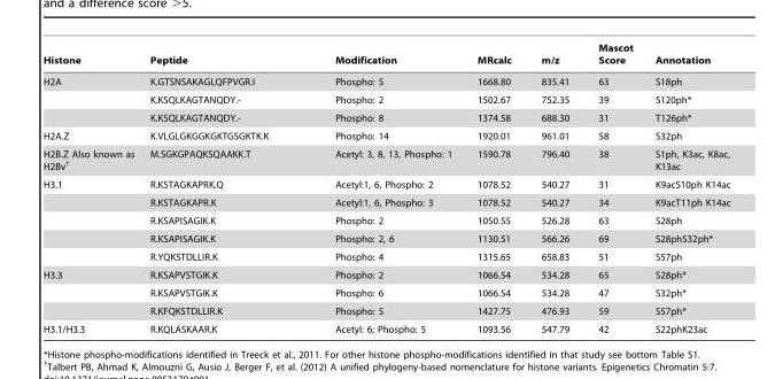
<table><thead><tr><td>Histone</td><td>Peptide</td><td>Modification</td><td>MRcalc</td><td>m/z</td><td>Mascot Score</td><td>Annotation</td></tr></thead><tbody><tr><td rowspan="3">H2A</td><td>K.GTSNSAKAGLQFPVGR.I</td><td>Phospho: 5</td><td>1668.80</td><td>835.41</td><td>63</td><td>S18ph</td></tr><tr><td>K.KSQLKAGTANQDY.-</td><td>Phospho: 2</td><td>1502.67</td><td>752.35</td><td>39</td><td>S120ph*</td></tr><tr><td>K.KSQLKAGTANQDY.-</td><td>Phospho: 8</td><td>1374.58</td><td>688.30</td><td>31</td><td>T126ph*</td></tr><tr><td>H2A.Z</td><td>K.VLGLGKGGKGKTGSGKTK.K</td><td>Phospho: 14</td><td>1920.01</td><td>961.01</td><td>58</td><td>S32ph</td></tr><tr><td>H2B.Z Also known as H2Bv†</td><td>M.SGKGPAQKSQAAKK.T</td><td>Acetyl: 3, 8, 13, Phospho: 1</td><td>1590.78</td><td>796.40</td><td>38</td><td>S1ph, K3ac, K8ac, K13ac</td></tr><tr><td rowspan="5">H3.1</td><td>R.KSTAGKAPRK.Q</td><td>Acetyl:1, 6, Phospho: 2</td><td>1078.52</td><td>540.27</td><td>31</td><td>K9acS10ph K14ac</td></tr><tr><td>R.KSTAGKAPR.K</td><td>Acetyl:1, 6, Phospho: 3</td><td>1078.52</td><td>540.27</td><td>34</td><td>K9acT11ph K14ac</td></tr><tr><td>R.KSAPISAGIK.K</td><td>Phospho: 2</td><td>1050.55</td><td>526.28</td><td>63</td><td>S28ph</td></tr><tr><td>R.KSAPISAGIK.K</td><td>Phospho: 2, 6</td><td>1130.51</td><td>566.26</td><td>69</td><td>S28phS32ph*</td></tr><tr><td>R.YQKSTDLLIR.K</td><td>Phospho: 4</td><td>1315.65</td><td>658.83</td><td>51</td><td>S57ph</td></tr><tr><td rowspan="3">H3.3</td><td>R.KSAPVSTGIK.K</td><td>Phospho: 2</td><td>1066.54</td><td>534.28</td><td>65</td><td>S28ph*</td></tr><tr><td>R.KSAPVSTGIK.K</td><td>Phospho: 6</td><td>1066.54</td><td>534.28</td><td>47</td><td>S32ph*</td></tr><tr><td>R.KFQKSTDLLIR.K</td><td>Phospho: 5</td><td>1427.75</td><td>476.93</td><td>59</td><td>S57ph*</td></tr><tr><td>H3.1/H3.3</td><td>R.KQLASKAAR.K</td><td>Acetyl: 6; Phospho: 5</td><td>1093.56</td><td>547.79</td><td>42</td><td>S22phK23ac</td></tr></tbody></table>